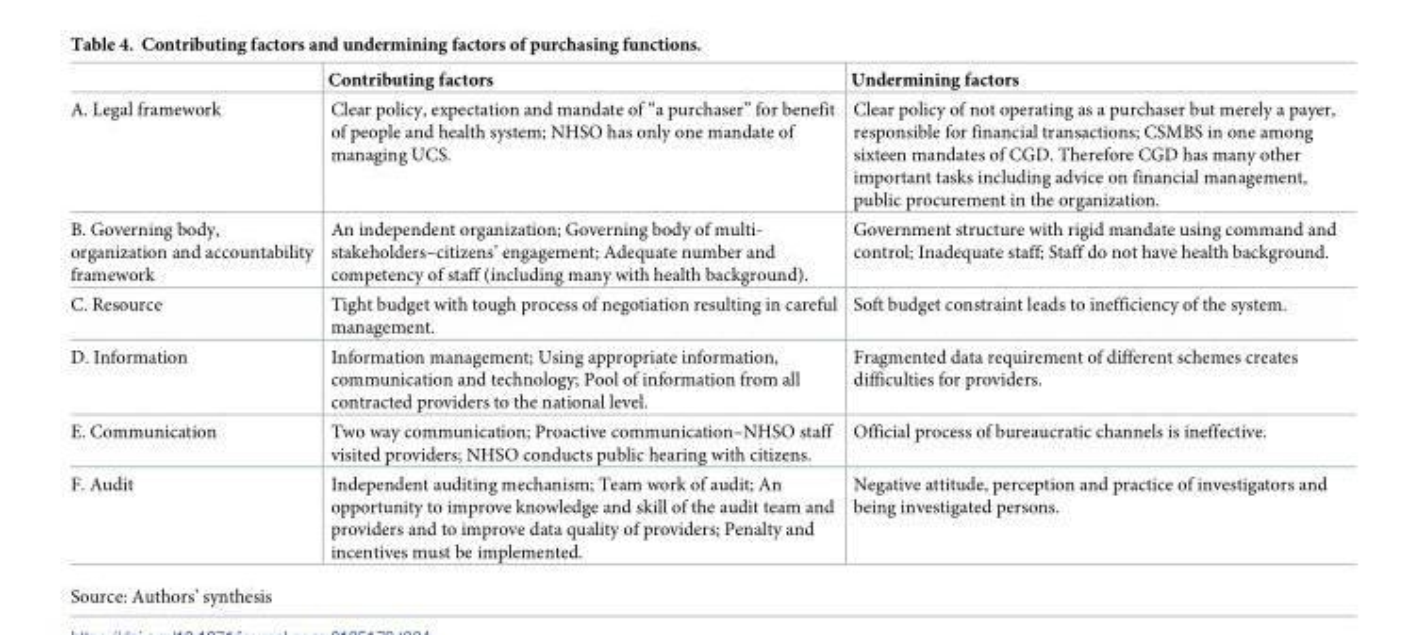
<table><thead><tr><td></td><td>Contributing factors</td><td>Undermining factors</td></tr></thead><tbody><tr><td>A. Legal framework</td><td>Clear policy, expectation and mandate of “a purchaser” for benefit of people and health system; NHSO has only one mandate of managing UCS.</td><td>Clear policy of not operating as a purchaser but merely a payer, responsible for financial transactions; CSMBS in one among sixteen mandates of CGD. Therefore CGD has many other important tasks including advice on financial management, public procurement in the organization.</td></tr><tr><td>B. Governing body, organization and accountability framework</td><td>An independent organization; Governing body of multi- stakeholders–citizens’ engagement; Adequate number and competency of staff (including many with health background).</td><td>Government structure with rigid mandate using command and control; Inadequate staff; Staff do not have health background.</td></tr><tr><td>C. Resource</td><td>Tight budget with tough process of negotiation resulting in careful management.</td><td>Soft budget constraint leads to inefficiency of the system.</td></tr><tr><td>D. Information</td><td>Information management; Using appropriate information, communication and technology; Pool of information from all contracted providers to the national level.</td><td>Fragmented data requirement of different schemes creates difficulties for providers.</td></tr><tr><td>E. Communication</td><td>Two way communication; Proactive communication–NHSO staff visited providers; NHSO conducts public hearing with citizens.</td><td>Official process of bureaucratic channels is ineffective.</td></tr><tr><td>F. Audit</td><td>Independent auditing mechanism; Team work of audit; An opportunity to improve knowledge and skill of the audit team and providers and to improve data quality of providers; Penalty and incentives must be implemented.</td><td>Negative attitude, perception and practice of investigators and being investigated persons.</td></tr></tbody></table>